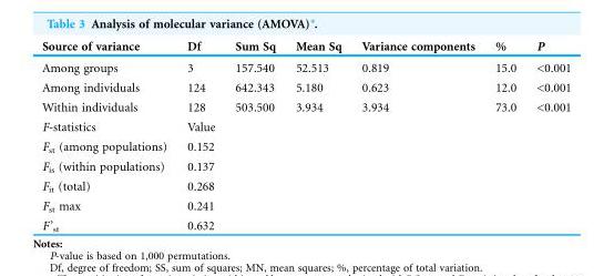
<table><thead><tr><td>Source of variance</td><td>Df</td><td>Sum Sq</td><td>Mean Sq</td><td>Variance components</td><td>%</td><td>P</td></tr></thead><tbody><tr><td>Among groups</td><td>3</td><td>157.540</td><td>52.513</td><td>0.819</td><td>15.0</td><td>&lt;0.001</td></tr><tr><td>Among individuals</td><td>124</td><td>642.343</td><td>5.180</td><td>0.623</td><td>12.0</td><td>&lt;0.001</td></tr><tr><td>Within individuals</td><td>128</td><td>503.500</td><td>3.934</td><td>3.934</td><td>73.0</td><td>&lt;0.001</td></tr><tr><td>F-statistics</td><td>Value</td><td></td><td></td><td></td><td></td><td></td></tr><tr><td>F<sub>st</sub> (among populations)</td><td>0.152</td><td></td><td></td><td></td><td></td><td></td></tr><tr><td>F<sub>is</sub> (within populations)</td><td>0.137</td><td></td><td></td><td></td><td></td><td></td></tr><tr><td>F<sub>it</sub> (total)</td><td>0.268</td><td></td><td></td><td></td><td></td><td></td></tr><tr><td>F<sub>st</sub> max</td><td>0.241</td><td></td><td></td><td></td><td></td><td></td></tr><tr><td>F’<sub>st</sub></td><td>0.632</td><td></td><td></td><td></td><td></td><td></td></tr></tbody></table>